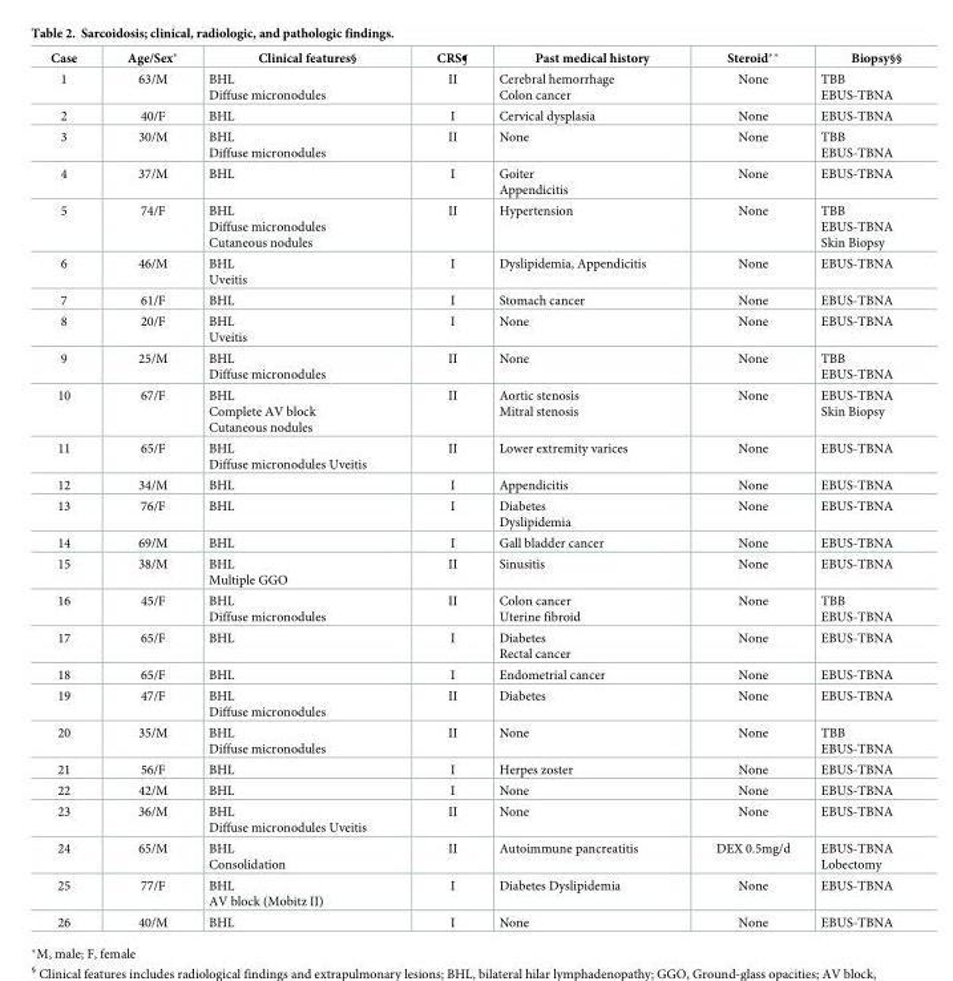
<table><thead><tr><td>Case</td><td>Age/Sex*</td><td>Clinical features§</td><td>CRS¶</td><td>Past medical history</td><td>Steroid**</td><td>Biopsy§§</td></tr></thead><tbody><tr><td>1</td><td>63/M</td><td>BHL Diffuse micronodules</td><td>II</td><td>Cerebral hemorrhage Colon cancer</td><td>None</td><td>TBB EBUS-TBNA</td></tr><tr><td>2</td><td>40/F</td><td>BHL</td><td>I</td><td>Cervical dysplasia</td><td>None</td><td>EBUS-TBNA</td></tr><tr><td>3</td><td>30/M</td><td>BHL Diffuse micronodules</td><td>II</td><td>None</td><td>None</td><td>TBB EBUS-TBNA</td></tr><tr><td>4</td><td>37/M</td><td>BHL</td><td>I</td><td>Goiter Appendicitis</td><td>None</td><td>EBUS-TBNA</td></tr><tr><td>5</td><td>74/F</td><td>BHL Diffuse micronodules Cutaneous nodules</td><td>II</td><td>Hypertension</td><td>None</td><td>TBB EBUS-TBNA Skin Biopsy</td></tr><tr><td>6</td><td>46/M</td><td>BHL Uveitis</td><td>I</td><td>Dyslipidemia, Appendicitis</td><td>None</td><td>EBUS-TBNA</td></tr><tr><td>7</td><td>61/F</td><td>BHL</td><td>I</td><td>Stomach cancer</td><td>None</td><td>EBUS-TBNA</td></tr><tr><td>8</td><td>20/F</td><td>BHL Uveitis</td><td>I</td><td>None</td><td>None</td><td>EBUS-TBNA</td></tr><tr><td>9</td><td>25/M</td><td>BHL Diffuse micronodules</td><td>II</td><td>None</td><td>None</td><td>TBB EBUS-TBNA</td></tr><tr><td>10</td><td>67/F</td><td>BHL Complete AV block Cutaneous nodules</td><td>II</td><td>Aortic stenosis Mitral stenosis</td><td>None</td><td>EBUS-TBNA Skin Biopsy</td></tr><tr><td>11</td><td>65/F</td><td>BHL Diffuse micronodules Uveitis</td><td>II</td><td>Lower extremity varices</td><td>None</td><td>EBUS-TBNA</td></tr><tr><td>12</td><td>34/M</td><td>BHL</td><td>I</td><td>Appendicitis</td><td>None</td><td>EBUS-TBNA</td></tr><tr><td>13</td><td>76/F</td><td>BHL</td><td>I</td><td>Diabetes Dyslipidemia</td><td>None</td><td>EBUS-TBNA</td></tr><tr><td>14</td><td>69/M</td><td>BHL</td><td>I</td><td>Gall bladder cancer</td><td>None</td><td>EBUS-TBNA</td></tr><tr><td>15</td><td>38/M</td><td>BHL Multiple GGO</td><td>II</td><td>Sinusitis</td><td>None</td><td>EBUS-TBNA</td></tr><tr><td>16</td><td>45/F</td><td>BHL Diffuse micronodules</td><td>II</td><td>Colon cancer Uterine fibroid</td><td>None</td><td>TBB EBUS-TBNA</td></tr><tr><td>17</td><td>65/F</td><td>BHL</td><td>I</td><td>Diabetes Rectal cancer</td><td>None</td><td>EBUS-TBNA</td></tr><tr><td>18</td><td>65/F</td><td>BHL</td><td>I</td><td>Endometrial cancer</td><td>None</td><td>EBUS-TBNA</td></tr><tr><td>19</td><td>47/F</td><td>BHL Diffuse micronodules</td><td>II</td><td>Diabetes</td><td>None</td><td>EBUS-TBNA</td></tr><tr><td>20</td><td>35/M</td><td>BHL Diffuse micronodules</td><td>II</td><td>None</td><td>None</td><td>TBB EBUS-TBNA</td></tr><tr><td>21</td><td>56/F</td><td>BHL</td><td>I</td><td>Herpes zoster</td><td>None</td><td>EBUS-TBNA</td></tr><tr><td>22</td><td>42/M</td><td>BHL</td><td>I</td><td>None</td><td>None</td><td>EBUS-TBNA</td></tr><tr><td>23</td><td>36/M</td><td>BHL Diffuse micronodules Uveitis</td><td>II</td><td>None</td><td>None</td><td>EBUS-TBNA</td></tr><tr><td>24</td><td>65/M</td><td>BHL Consolidation</td><td>II</td><td>Autoimmune pancreatitis</td><td>DEX 0.5mg/d</td><td>EBUS-TBNA Lobectomy</td></tr><tr><td>25</td><td>77/F</td><td>BHL AV block (Mobitz II)</td><td>I</td><td>Diabetes Dyslipidemia</td><td>None</td><td>EBUS-TBNA</td></tr><tr><td>26</td><td>40/M</td><td>BHL</td><td>I</td><td>None</td><td>None</td><td>EBUS-TBNA</td></tr></tbody></table>